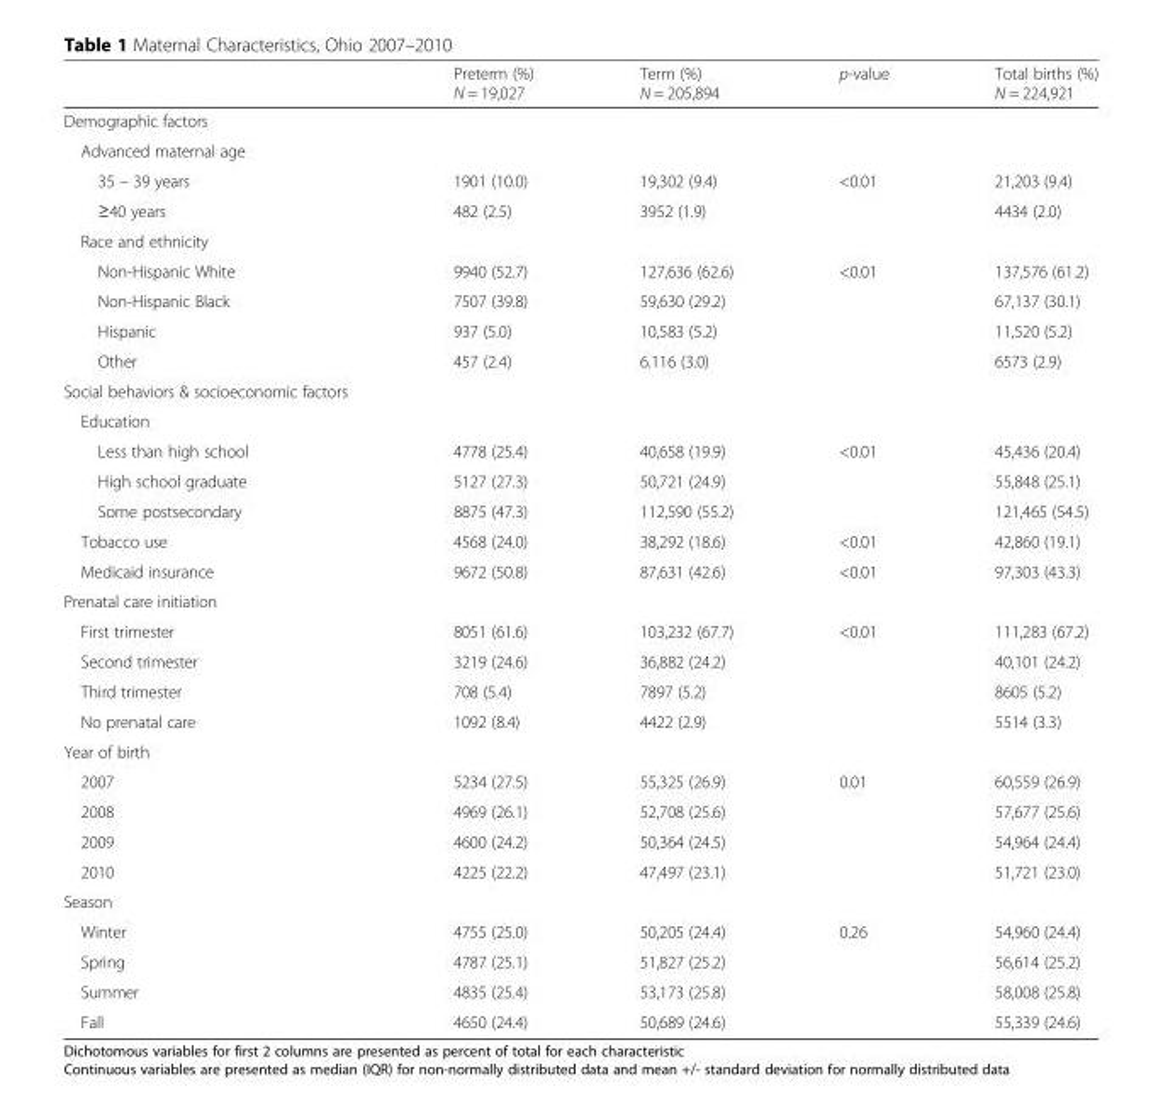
<table><thead><tr><td></td><td>Preterm (%) N = 19,027</td><td>Term (%) N = 205,894</td><td>p-value</td><td>Total births (%) N = 224,921</td></tr></thead><tbody><tr><td colspan="5">Demographic factors</td></tr><tr><td colspan="5">Advanced maternal age</td></tr><tr><td>35 – 39 years</td><td>1901 (10.0)</td><td>19,302 (9.4)</td><td>&lt;0.01</td><td>21,203 (9.4)</td></tr><tr><td>≥40 years</td><td>482 (2.5)</td><td>3952 (1.9)</td><td></td><td>4434 (2.0)</td></tr><tr><td colspan="5">Race and ethnicity</td></tr><tr><td>Non-Hispanic White</td><td>9940 (52.7)</td><td>127,636 (62.6)</td><td>&lt;0.01</td><td>137,576 (61.2)</td></tr><tr><td>Non-Hispanic Black</td><td>7507 (39.8)</td><td>59,630 (29.2)</td><td></td><td>67,137 (30.1)</td></tr><tr><td>Hispanic</td><td>937 (5.0)</td><td>10,583 (5.2)</td><td></td><td>11,520 (5.2)</td></tr><tr><td>Other</td><td>457 (2.4)</td><td>6.116 (3.0)</td><td></td><td>6573 (2.9)</td></tr><tr><td colspan="5">Social behaviors &amp; socioeconomic factors</td></tr><tr><td colspan="5">Education</td></tr><tr><td>Less than high school</td><td>4778 (25.4)</td><td>40,658 (19.9)</td><td>&lt;0.01</td><td>45,436 (20.4)</td></tr><tr><td>High school graduate</td><td>5127 (27.3)</td><td>50,721 (24.9)</td><td></td><td>55,848 (25.1)</td></tr><tr><td>Some postsecondary</td><td>8875 (47.3)</td><td>112,590 (55.2)</td><td></td><td>121,465 (54.5)</td></tr><tr><td>Tobacco use</td><td>4568 (24.0)</td><td>38,292 (18.6)</td><td>&lt;0.01</td><td>42,860 (19.1)</td></tr><tr><td>Medicaid insurance</td><td>9672 (50.8)</td><td>87,631 (42.6)</td><td>&lt;0.01</td><td>97,303 (43.3)</td></tr><tr><td colspan="5">Prenatal care initiation</td></tr><tr><td>First trimester</td><td>8051 (61.6)</td><td>103,232 (67.7)</td><td>&lt;0.01</td><td>111,283 (67.2)</td></tr><tr><td>Second trimester</td><td>3219 (24.6)</td><td>36,882 (24.2)</td><td></td><td>40,101 (24.2)</td></tr><tr><td>Third trimester</td><td>708 (5.4)</td><td>7897 (5.2)</td><td></td><td>8605 (5.2)</td></tr><tr><td>No prenatal care</td><td>1092 (8.4)</td><td>4422 (2.9)</td><td></td><td>5514 (3.3)</td></tr><tr><td colspan="5">Year of birth</td></tr><tr><td>2007</td><td>5234 (27.5)</td><td>55,325 (26.9)</td><td>0.01</td><td>60,559 (26.9)</td></tr><tr><td>2008</td><td>4969 (26.1)</td><td>52,708 (25.6)</td><td></td><td>57,677 (25.6)</td></tr><tr><td>2009</td><td>4600 (24.2)</td><td>50,364 (24.5)</td><td></td><td>54,964 (24.4)</td></tr><tr><td>2010</td><td>4225 (22.2)</td><td>47,497 (23.1)</td><td></td><td>51,721 (23.0)</td></tr><tr><td colspan="5">Season</td></tr><tr><td>Winter</td><td>4755 (25.0)</td><td>50,205 (24.4)</td><td>0.26</td><td>54,960 (24.4)</td></tr><tr><td>Spring</td><td>4787 (25.1)</td><td>51,827 (25.2)</td><td></td><td>56,614 (25.2)</td></tr><tr><td>Summer</td><td>4835 (25.4)</td><td>53,173 (25.8)</td><td></td><td>58,008 (25.8)</td></tr><tr><td>Fall</td><td>4650 (24.4)</td><td>50,689 (24.6)</td><td></td><td>55,339 (24.6)</td></tr></tbody></table>